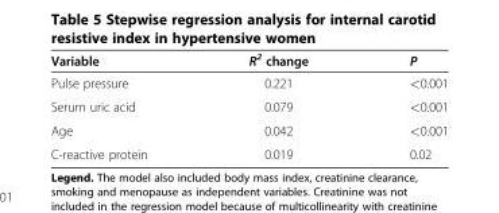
<table><thead><tr><td>Variable</td><td>R<sup>2</sup> change</td><td>P</td></tr></thead><tbody><tr><td>Pulse pressure</td><td>0.221</td><td>&lt;0.001</td></tr><tr><td>Serum uric acid</td><td>0.079</td><td>&lt;0.001</td></tr><tr><td>Age</td><td>0.042</td><td>&lt;0.001</td></tr><tr><td>C-reactive protein</td><td>0.019</td><td>0.02</td></tr></tbody></table>